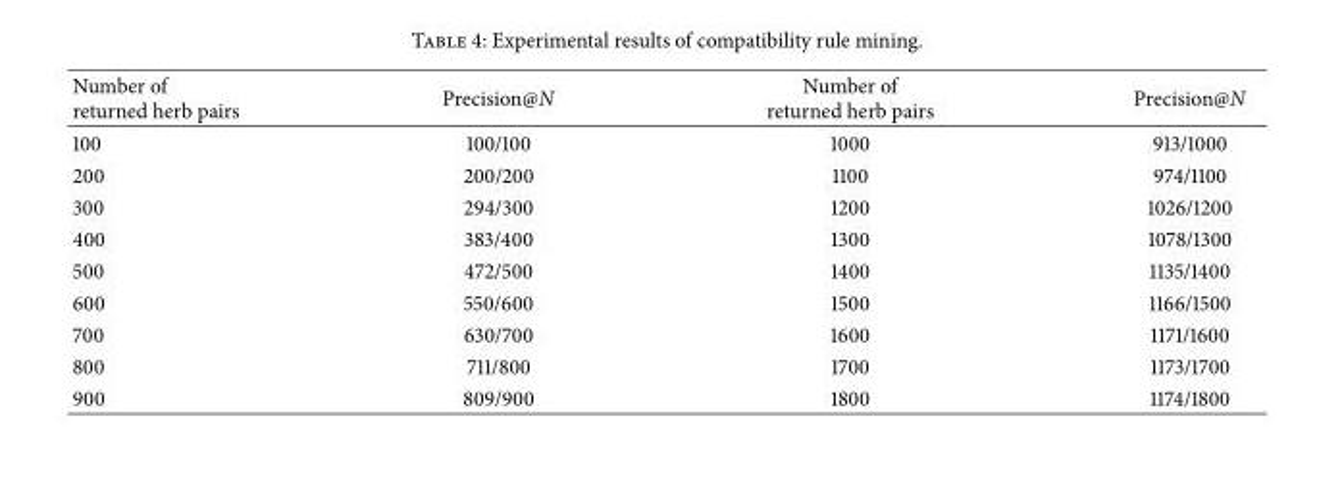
<table><thead><tr><td>Number of returned herb pairs</td><td>Precision@N</td><td>Number of returned herb pairs</td><td>Precision@N</td></tr></thead><tbody><tr><td>100</td><td>100/100</td><td>1000</td><td>913/1000</td></tr><tr><td>200</td><td>200/200</td><td>1100</td><td>974/1100</td></tr><tr><td>300</td><td>294/300</td><td>1200</td><td>1026/1200</td></tr><tr><td>400</td><td>383/400</td><td>1300</td><td>1078/1300</td></tr><tr><td>500</td><td>472/500</td><td>1400</td><td>1135/1400</td></tr><tr><td>600</td><td>550/600</td><td>1500</td><td>1166/1500</td></tr><tr><td>700</td><td>630/700</td><td>1600</td><td>1171/1600</td></tr><tr><td>800</td><td>711/800</td><td>1700</td><td>1173/1700</td></tr><tr><td>900</td><td>809/900</td><td>1800</td><td>1174/1800</td></tr></tbody></table>